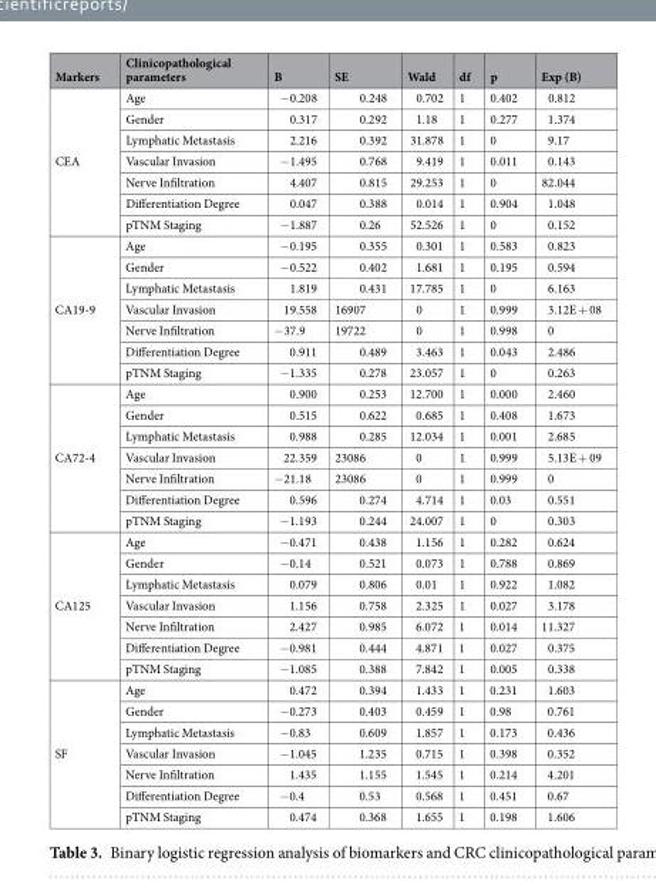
<table><thead><tr><td>Markers</td><td>Clinicopathological parameters</td><td>B</td><td>SE</td><td>Wald</td><td>df</td><td>p</td><td>Exp (B)</td></tr></thead><tbody><tr><td rowspan="7">CEA</td><td>Age</td><td>−0.208</td><td>0.248</td><td>0.702</td><td>1</td><td>0.402</td><td>0.812</td></tr><tr><td>Gender</td><td>0.317</td><td>0.292</td><td>1.18</td><td>1</td><td>0.277</td><td>1.374</td></tr><tr><td>Lymphatic Metastasis</td><td>2.216</td><td>0.392</td><td>31.878</td><td>1</td><td>0</td><td>9.17</td></tr><tr><td>Vascular Invasion</td><td>−1.495</td><td>0.768</td><td>9.419</td><td>1</td><td>0.011</td><td>0.143</td></tr><tr><td>Nerve Infiltration</td><td>4.407</td><td>0.815</td><td>29.253</td><td>1</td><td>0</td><td>82.044</td></tr><tr><td>Differentiation Degree</td><td>0.047</td><td>0.388</td><td>0.014</td><td>1</td><td>0.904</td><td>1.048</td></tr><tr><td>pTNM Staging</td><td>−1.887</td><td>0.26</td><td>52.526</td><td>1</td><td>0</td><td>0.152</td></tr><tr><td rowspan="7">CA19-9</td><td>Age</td><td>−0.195</td><td>0.355</td><td>0.301</td><td>1</td><td>0.583</td><td>0.823</td></tr><tr><td>Gender</td><td>−0.522</td><td>0.402</td><td>1.681</td><td>1</td><td>0.195</td><td>0.594</td></tr><tr><td>Lymphatic Metastasis</td><td>1.819</td><td>0.431</td><td>17.785</td><td>1</td><td>0</td><td>6.163</td></tr><tr><td>Vascular Invasion</td><td>19.558</td><td>16907</td><td>0</td><td>1</td><td>0.999</td><td>3.12E + 08</td></tr><tr><td>Nerve Infiltration</td><td>−37.9</td><td>19722</td><td>0</td><td>1</td><td>0.998</td><td>0</td></tr><tr><td>Differentiation Degree</td><td>0.911</td><td>0.489</td><td>3.463</td><td>1</td><td>0.043</td><td>2.486</td></tr><tr><td>pTNM Staging</td><td>−1.335</td><td>0.278</td><td>23.057</td><td>1</td><td>0</td><td>0.263</td></tr><tr><td rowspan="7">CA72-4</td><td>Age</td><td>0.900</td><td>0.253</td><td>12.700</td><td>1</td><td>0.000</td><td>2.460</td></tr><tr><td>Gender</td><td>0.515</td><td>0.622</td><td>0.685</td><td>1</td><td>0.408</td><td>1.673</td></tr><tr><td>Lymphatic Metastasis</td><td>0.988</td><td>0.285</td><td>12.034</td><td>1</td><td>0.001</td><td>2.685</td></tr><tr><td>Vascular Invasion</td><td>22.359</td><td>23086</td><td>0</td><td>1</td><td>0.999</td><td>5.13E + 09</td></tr><tr><td>Nerve Infiltration</td><td>−21.18</td><td>23086</td><td>0</td><td>1</td><td>0.999</td><td>0</td></tr><tr><td>Differentiation Degree</td><td>0.596</td><td>0.274</td><td>4.714</td><td>1</td><td>0.03</td><td>0.551</td></tr><tr><td>pTNM Staging</td><td>−1.193</td><td>0.244</td><td>24.007</td><td>1</td><td>0</td><td>0.303</td></tr><tr><td rowspan="7">CA125</td><td>Age</td><td>−0.471</td><td>0.438</td><td>1.156</td><td>1</td><td>0.282</td><td>0.624</td></tr><tr><td>Gender</td><td>−0.14</td><td>0.521</td><td>0.073</td><td>1</td><td>0.788</td><td>0.869</td></tr><tr><td>Lymphatic Metastasis</td><td>0.079</td><td>0.806</td><td>0.01</td><td>1</td><td>0.922</td><td>1.082</td></tr><tr><td>Vascular Invasion</td><td>1.156</td><td>0.758</td><td>2.325</td><td>1</td><td>0.027</td><td>3.178</td></tr><tr><td>Nerve Infiltration</td><td>2.427</td><td>0.985</td><td>6.072</td><td>1</td><td>0.014</td><td>11.327</td></tr><tr><td>Differentiation Degree</td><td>−0.981</td><td>0.444</td><td>4.871</td><td>1</td><td>0.027</td><td>0.375</td></tr><tr><td>pTNM Staging</td><td>−1.085</td><td>0.388</td><td>7.842</td><td>1</td><td>0.005</td><td>0.338</td></tr><tr><td rowspan="7">SF</td><td>Age</td><td>0.472</td><td>0.394</td><td>1.433</td><td>1</td><td>0.231</td><td>1.603</td></tr><tr><td>Gender</td><td>−0.273</td><td>0.403</td><td>0.459</td><td>1</td><td>0.98</td><td>0.761</td></tr><tr><td>Lymphatic Metastasis</td><td>−0.83</td><td>0.609</td><td>1.857</td><td>1</td><td>0.173</td><td>0.436</td></tr><tr><td>Vascular Invasion</td><td>−1.045</td><td>1.235</td><td>0.715</td><td>1</td><td>0.398</td><td>0.352</td></tr><tr><td>Nerve Infiltration</td><td>1.435</td><td>1.155</td><td>1.545</td><td>1</td><td>0.214</td><td>4.201</td></tr><tr><td>Differentiation Degree</td><td>−0.4</td><td>0.53</td><td>0.568</td><td>1</td><td>0.451</td><td>0.67</td></tr><tr><td>pTNM Staging</td><td>0.474</td><td>0.368</td><td>1.655</td><td>1</td><td>0.198</td><td>1.606</td></tr></tbody></table>